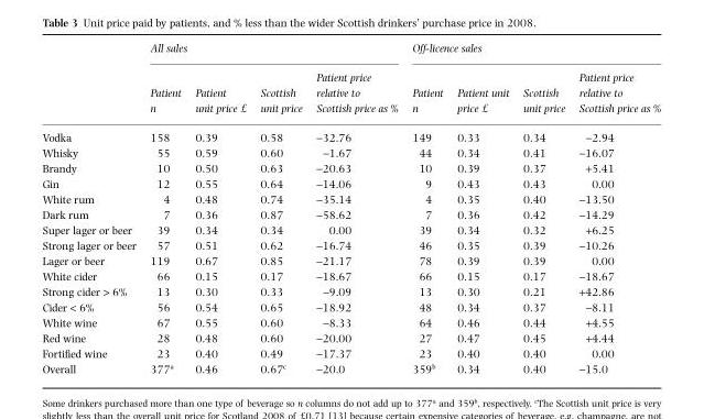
<table><thead><tr><td rowspan="2"></td><td colspan="4">All sales</td><td colspan="4">Off-licence sales</td></tr><tr><td>Patient n</td><td>Patient unit price £</td><td>Scottish unit price</td><td>Patient price relative to Scottish price as %</td><td>Patient n</td><td>Patient unit price £</td><td>Scottish unit price</td><td>Patient price relative to Scottish price as %</td></tr></thead><tbody><tr><td>Vodka</td><td>158</td><td>0.39</td><td>0.58</td><td>-32.76</td><td>149</td><td>0.33</td><td>0.34</td><td>-2.94</td></tr><tr><td>Whisky</td><td>55</td><td>0.59</td><td>0.60</td><td>-1.67</td><td>44</td><td>0.34</td><td>0.41</td><td>-16.07</td></tr><tr><td>Brandy</td><td>10</td><td>0.50</td><td>0.63</td><td>-20.63</td><td>10</td><td>0.39</td><td>0.37</td><td>+5.41</td></tr><tr><td>Gin</td><td>12</td><td>0.55</td><td>0.64</td><td>-14.06</td><td>9</td><td>0.43</td><td>0.43</td><td>0.00</td></tr><tr><td>White rum</td><td>4</td><td>0.48</td><td>0.74</td><td>-35.14</td><td>4</td><td>0.35</td><td>0.40</td><td>-13.50</td></tr><tr><td>Dark rum</td><td>7</td><td>0.36</td><td>0.87</td><td>-58.62</td><td>7</td><td>0.36</td><td>0.42</td><td>-14.29</td></tr><tr><td>Super lager or beer</td><td>39</td><td>0.34</td><td>0.34</td><td>0.00</td><td>39</td><td>0.34</td><td>0.32</td><td>+6.25</td></tr><tr><td>Strong lager or beer</td><td>57</td><td>0.51</td><td>0.62</td><td>-16.74</td><td>46</td><td>0.35</td><td>0.39</td><td>-10.26</td></tr><tr><td>Lager or beer</td><td>119</td><td>0.67</td><td>0.85</td><td>-21.17</td><td>78</td><td>0.39</td><td>0.39</td><td>0.00</td></tr><tr><td>White cider</td><td>66</td><td>0.15</td><td>0.17</td><td>-18.67</td><td>66</td><td>0.15</td><td>0.17</td><td>-18.67</td></tr><tr><td>Strong cider &gt; 6%</td><td>13</td><td>0.30</td><td>0.33</td><td>-9.09</td><td>13</td><td>0.30</td><td>0.21</td><td>+42.86</td></tr><tr><td>Cider &lt; 6%</td><td>56</td><td>0.54</td><td>0.65</td><td>-18.92</td><td>48</td><td>0.34</td><td>0.37</td><td>-8.11</td></tr><tr><td>White wine</td><td>67</td><td>0.55</td><td>0.60</td><td>-8.33</td><td>64</td><td>0.46</td><td>0.44</td><td>+4.55</td></tr><tr><td>Red wine</td><td>28</td><td>0.48</td><td>0.60</td><td>-20.00</td><td>27</td><td>0.47</td><td>0.45</td><td>+4.44</td></tr><tr><td>Fortified wine</td><td>23</td><td>0.40</td><td>0.49</td><td>-17.37</td><td>23</td><td>0.40</td><td>0.40</td><td>0.00</td></tr><tr><td>Overall</td><td>377<sub>a</sub></td><td>0.46</td><td>0.67<sub>c</sub></td><td>-20.0</td><td>359<sub>b</sub></td><td>0.34</td><td>0.40</td><td>-15.0</td></tr></tbody></table>